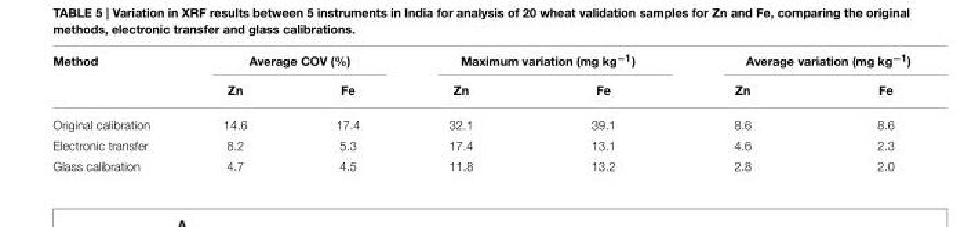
<table><thead><tr><td rowspan="2">Method</td><td colspan="2">Average COV (%)</td><td colspan="2">Maximum variation (mg kg<sup>−1</sup>)</td><td colspan="2">Average variation (mg kg<sup>−1</sup>)</td></tr><tr><td>Zn</td><td>Fe</td><td>Zn</td><td>Fe</td><td>Zn</td><td>Fe</td></tr></thead><tbody><tr><td>Original calibration</td><td>14.6</td><td>17.4</td><td>32.1</td><td>39.1</td><td>8.6</td><td>8.6</td></tr><tr><td>Electronic transfer</td><td>8.2</td><td>5.3</td><td>17.4</td><td>13.1</td><td>4.6</td><td>2.3</td></tr><tr><td>Glass calibration</td><td>4.7</td><td>4.5</td><td>11.8</td><td>13.2</td><td>2.8</td><td>2.0</td></tr></tbody></table>